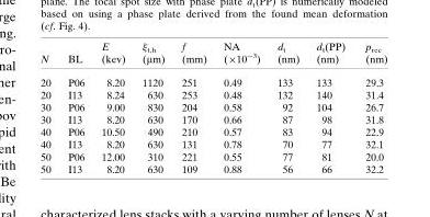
<table><thead><tr><td>N</td><td>BL</td><td>E (kev)</td><td>ξ<sub>t,h</sub> (µm)</td><td>f (mm)</td><td>NA (×10<sup>−3</sup>)</td><td>d<sub>t</sub> (nm)</td><td>d<sub>t</sub>(PP) (nm)</td><td>p<sub>rec</sub> (nm)</td></tr></thead><tbody><tr><td>20</td><td>P06</td><td>8.20</td><td>1120</td><td>251</td><td>0.49</td><td>133</td><td>133</td><td>29.3</td></tr><tr><td>20</td><td>I13</td><td>8.24</td><td>630</td><td>253</td><td>0.48</td><td>132</td><td>140</td><td>31.4</td></tr><tr><td>30</td><td>P06</td><td>9.00</td><td>830</td><td>204</td><td>0.58</td><td>92</td><td>104</td><td>26.7</td></tr><tr><td>30</td><td>I13</td><td>8.20</td><td>630</td><td>170</td><td>0.66</td><td>87</td><td>98</td><td>31.8</td></tr><tr><td>40</td><td>P06</td><td>10.50</td><td>490</td><td>210</td><td>0.57</td><td>83</td><td>94</td><td>22.9</td></tr><tr><td>40</td><td>I13</td><td>8.20</td><td>630</td><td>131</td><td>0.78</td><td>70</td><td>77</td><td>32.1</td></tr><tr><td>50</td><td>P06</td><td>12.00</td><td>310</td><td>221</td><td>0.55</td><td>77</td><td>81</td><td>20.0</td></tr><tr><td>50</td><td>I13</td><td>8.20</td><td>630</td><td>109</td><td>0.88</td><td>56</td><td>66</td><td>32.2</td></tr></tbody></table>